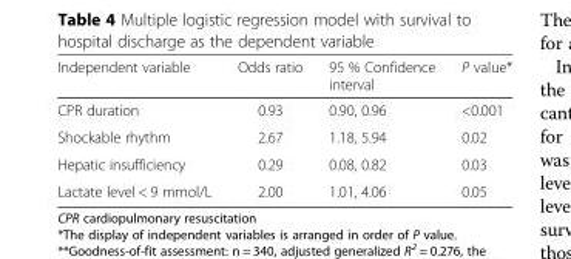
<table><thead><tr><td>Independent variable</td><td>Odds ratio</td><td>95 % Confidence interval</td><td>P value*</td></tr></thead><tbody><tr><td>CPR duration</td><td>0.93</td><td>0.90, 0.96</td><td>&lt;0.001</td></tr><tr><td>Shockable rhythm</td><td>2.67</td><td>1.18, 5.94</td><td>0.02</td></tr><tr><td>Hepatic insufficiency</td><td>0.29</td><td>0.08, 0.82</td><td>0.03</td></tr><tr><td>Lactate level &lt; 9 mmol/L</td><td>2.00</td><td>1.01, 4.06</td><td>0.05</td></tr></tbody></table>